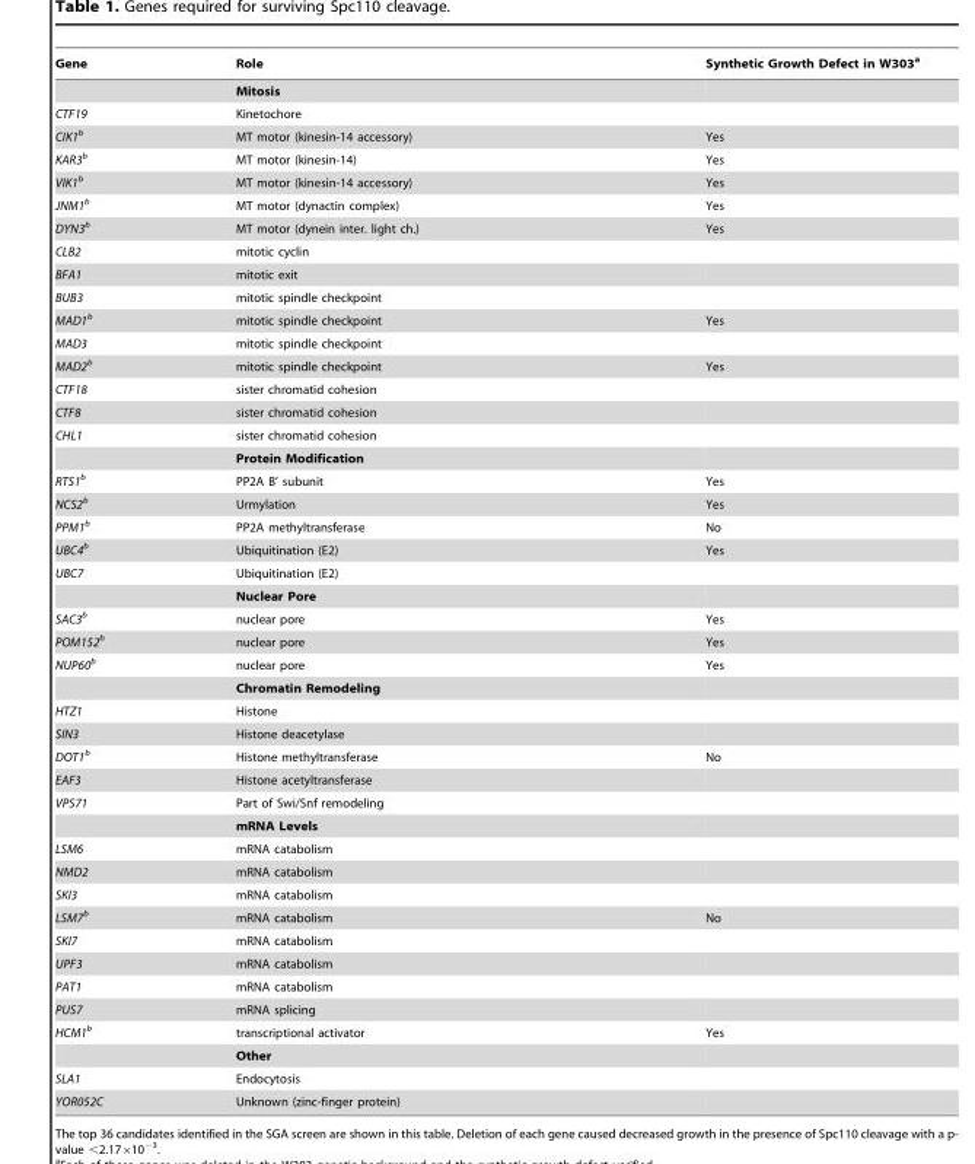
<table><thead><tr><td>Gene</td><td>Role</td><td>Synthetic Growth Defect in W303<sup>a</sup></td></tr></thead><tbody><tr><td></td><td>Mitosis</td><td></td></tr><tr><td>CTF19</td><td>Kinetochore</td><td></td></tr><tr><td>CIK1b</td><td>MT motor (kinesin-14 accessory)</td><td>Yes</td></tr><tr><td>KAR3b</td><td>MT motor (kinesin-14)</td><td>Yes</td></tr><tr><td>VIK1b</td><td>MT motor (kinesin-14 accessory)</td><td>Yes</td></tr><tr><td>JNM1b</td><td>MT motor (dynactin complex)</td><td>Yes</td></tr><tr><td>DYN3b</td><td>MT motor (dynein inter. light ch.)</td><td>Yes</td></tr><tr><td>CLB2</td><td>mitotic cyclin</td><td></td></tr><tr><td>BFA1</td><td>mitotic exit</td><td></td></tr><tr><td>BUB3</td><td>mitotic spindle checkpoint</td><td></td></tr><tr><td>MAD1b</td><td>mitotic spindle checkpoint</td><td>Yes</td></tr><tr><td>MAD3</td><td>mitotic spindle checkpoint</td><td></td></tr><tr><td>MAD2b</td><td>mitotic spindle checkpoint</td><td>Yes</td></tr><tr><td>CTF18</td><td>sister chromatid cohesion</td><td></td></tr><tr><td>CTF8</td><td>sister chromatid cohesion</td><td></td></tr><tr><td rowspan="2">CHL1</td><td>sister chromatid cohesion</td><td></td></tr><tr><td>Protein Modification</td><td></td></tr><tr><td>RTS1b</td><td>PP2A B’ subunit</td><td>Yes</td></tr><tr><td>NCS2b</td><td>Urmylation</td><td>Yes</td></tr><tr><td>PPM1b</td><td>PP2A methyltransferase</td><td>No</td></tr><tr><td>UBC4b</td><td>Ubiquitination (E2)</td><td>Yes</td></tr><tr><td rowspan="2">UBC7</td><td>Ubiquitination (E2)</td><td></td></tr><tr><td>Nuclear Pore</td><td></td></tr><tr><td>SAC3b</td><td>nuclear pore</td><td>Yes</td></tr><tr><td>POM152b</td><td>nuclear pore</td><td>Yes</td></tr><tr><td rowspan="2">NUP60b</td><td>nuclear pore</td><td>Yes</td></tr><tr><td>Chromatin Remodeling</td><td></td></tr><tr><td>HTZ1</td><td>Histone</td><td></td></tr><tr><td>SIN3</td><td>Histone deacetylase</td><td></td></tr><tr><td>DOT1b</td><td>Histone methyltransferase</td><td>No</td></tr><tr><td>EAF3</td><td>Histone acetyltransferase</td><td></td></tr><tr><td rowspan="2">VPS71</td><td>Part of Swi/Snf remodeling</td><td></td></tr><tr><td>mRNA Levels</td><td></td></tr><tr><td>LSM6</td><td>mRNA catabolism</td><td></td></tr><tr><td>NMD2</td><td>mRNA catabolism</td><td></td></tr><tr><td>SKI3</td><td>mRNA catabolism</td><td></td></tr><tr><td>LSM7b</td><td>mRNA catabolism</td><td>No</td></tr><tr><td>SKI7</td><td>mRNA catabolism</td><td></td></tr><tr><td>UPF3</td><td>mRNA catabolism</td><td></td></tr><tr><td>PAT1</td><td>mRNA catabolism</td><td></td></tr><tr><td>PUS7</td><td>mRNA splicing</td><td></td></tr><tr><td rowspan="2">HCM1b</td><td>transcriptional activator</td><td>Yes</td></tr><tr><td>Other</td><td></td></tr><tr><td>SLA1</td><td>Endocytosis</td><td></td></tr><tr><td>YOR052C</td><td>Unknown (zinc-finger protein)</td><td></td></tr></tbody></table>